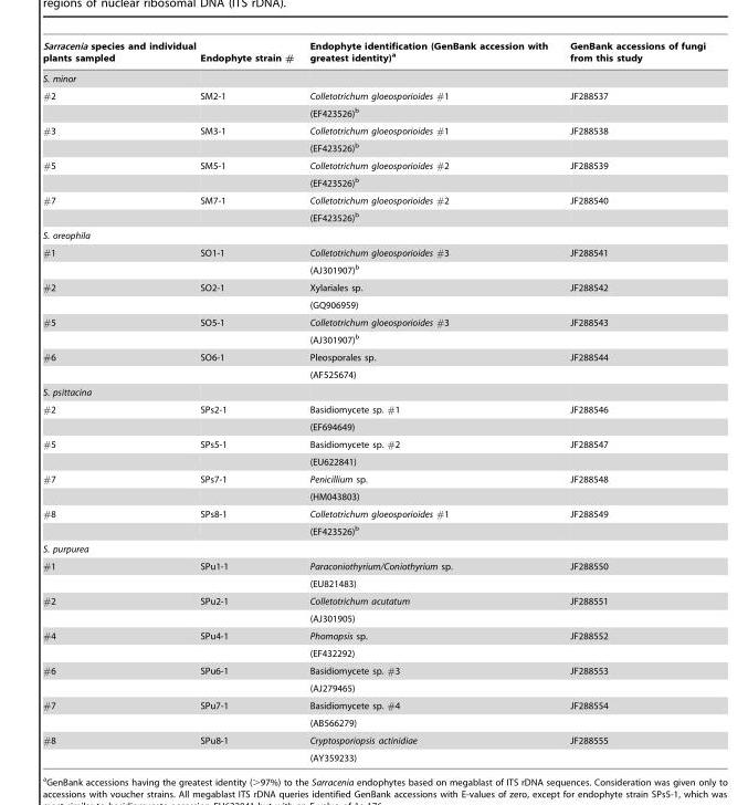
<table><thead><tr><td>Sarracenia species and individual plants sampled</td><td>Endophyte strain #</td><td>Endophyte identification (GenBank accession with greatest identity)<sup>a</sup></td><td>GenBank accessions of fungi from this study</td></tr></thead><tbody><tr><td colspan="4">S. minor</td></tr><tr><td rowspan="2">#2</td><td>SM2-1</td><td>Colletotrichum gloeosporioides #1</td><td>JF288537</td></tr><tr><td></td><td>(EF423526)<sup>b</sup></td><td></td></tr><tr><td rowspan="2">#3</td><td>SM3-1</td><td>Colletotrichum gloeosporioides #1</td><td>JF288538</td></tr><tr><td></td><td>(EF423526)<sup>b</sup></td><td></td></tr><tr><td rowspan="2">#5</td><td>SM5-1</td><td>Colletotrichum gloeosporioides #2</td><td>JF288539</td></tr><tr><td></td><td>(EF423526)<sup>b</sup></td><td></td></tr><tr><td rowspan="2">#7</td><td>SM7-1</td><td>Colletotrichum gloeosporioides #2</td><td>JF288540</td></tr><tr><td></td><td>(EF423526)<sup>b</sup></td><td></td></tr><tr><td colspan="4">S. oreophila</td></tr><tr><td rowspan="2">#1</td><td>SO1-1</td><td>Colletotrichum gloeosporioides #3</td><td>JF288541</td></tr><tr><td></td><td>(AJ301907)<sup>b</sup></td><td></td></tr><tr><td rowspan="2">#2</td><td>SO2-1</td><td>Xylariales sp.</td><td>JF288542</td></tr><tr><td></td><td>(GQ906959)</td><td></td></tr><tr><td rowspan="2">#5</td><td>SO5-1</td><td>Colletotrichum gloeosporioides #3</td><td>JF288543</td></tr><tr><td></td><td>(AJ301907)<sup>b</sup></td><td></td></tr><tr><td rowspan="2">#6</td><td>SO6-1</td><td>Pleosporales sp.</td><td>JF288544</td></tr><tr><td></td><td>(AF525674)</td><td></td></tr><tr><td colspan="4">S. psittacina</td></tr><tr><td rowspan="2">#2</td><td>SPs2-1</td><td>Basidiomycete sp. #1</td><td>JF288546</td></tr><tr><td></td><td>(EF694649)</td><td></td></tr><tr><td rowspan="2">#5</td><td>SPs5-1</td><td>Basidiomycete sp. #2</td><td>JF288547</td></tr><tr><td></td><td>(EU622841)</td><td></td></tr><tr><td rowspan="2">#7</td><td>SPs7-1</td><td>Penicillium sp.</td><td>JF288548</td></tr><tr><td></td><td>(HM043803)</td><td></td></tr><tr><td rowspan="2">#8</td><td>SPs8-1</td><td>Colletotrichum gloeosporioides #1</td><td>JF288549</td></tr><tr><td></td><td>(EF423526)<sup>b</sup></td><td></td></tr><tr><td colspan="4">S. purpurea</td></tr><tr><td rowspan="2">#1</td><td>SPu1-1</td><td>Paraconiothyrium/Coniothyrium sp.</td><td>JF288550</td></tr><tr><td></td><td>(EU821483)</td><td></td></tr><tr><td rowspan="2">#2</td><td>SPu2-1</td><td>Colletotrichum acutatum</td><td>JF288551</td></tr><tr><td></td><td>(AJ301905)</td><td></td></tr><tr><td rowspan="2">#4</td><td>SPu4-1</td><td>Phomopsis sp.</td><td>JF288552</td></tr><tr><td></td><td>(EF432292)</td><td></td></tr><tr><td rowspan="2">#6</td><td>SPu6-1</td><td>Basidiomycete sp. #3</td><td>JF288553</td></tr><tr><td></td><td>(AJ279465)</td><td></td></tr><tr><td rowspan="2">#7</td><td>SPu7-1</td><td>Basidiomycete sp. #4</td><td>JF288554</td></tr><tr><td></td><td>(AB566279)</td><td></td></tr><tr><td rowspan="2">#8</td><td>SPu8-1</td><td>Cryptosporiopsis actinidiae</td><td>JF288555</td></tr><tr><td></td><td>(AY359233)</td><td></td></tr></tbody></table>